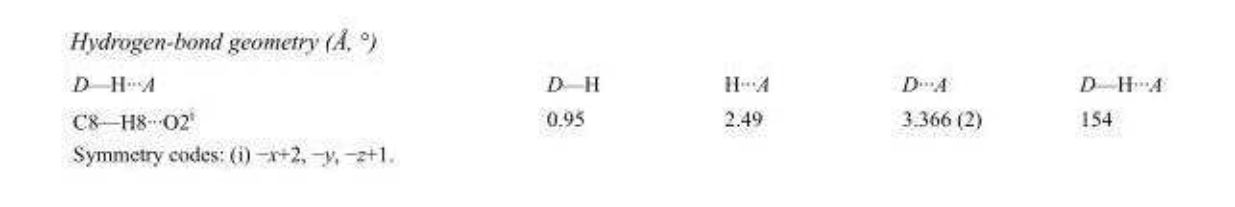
<table><tbody><tr><td>D—H···A</td><td>D—H</td><td>H···A</td><td>D···A</td><td>D—H···A</td></tr><tr><td>C8—H8···O2<sup>i</sup></td><td>0.95</td><td>2.49</td><td>3.366 (2)</td><td>154</td></tr></tbody></table>